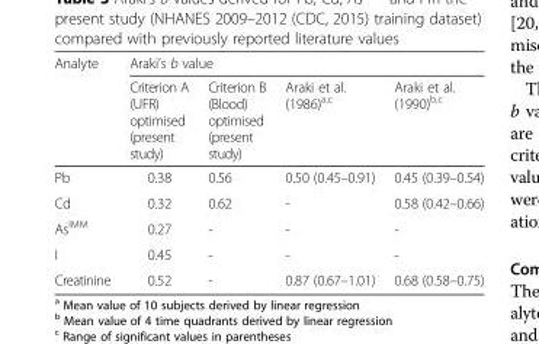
<table><thead><tr><td rowspan="2">Analyte</td><td colspan="4">Araki’s b value</td></tr><tr><td>Criterion A (UFR) optimised (present study)</td><td>Criterion B (Blood) optimised (present study)</td><td>Araki et al. (1986)<sup>a,c</sup></td><td>Araki et al. (1990)<sup>b,c</sup></td></tr></thead><tbody><tr><td>Pb</td><td>0.38</td><td>0.56</td><td>0.50 (0.45–0.91)</td><td>0.45 (0.39–0.54)</td></tr><tr><td>Cd</td><td>0.32</td><td>0.62</td><td>-</td><td>0.58 (0.42–0.66)</td></tr><tr><td>As<sup>IMM</sup></td><td>0.27</td><td>-</td><td>-</td><td>-</td></tr><tr><td>I</td><td>0.45</td><td>-</td><td>-</td><td>-</td></tr><tr><td>Creatinine</td><td>0.52</td><td>-</td><td>0.87 (0.67–1.01)</td><td>0.68 (0.58–0.75)</td></tr></tbody></table>